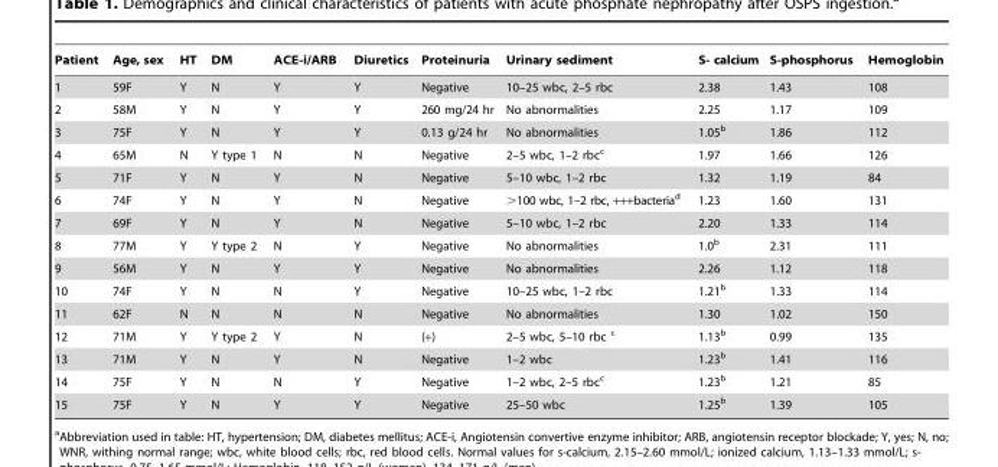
<table><thead><tr><td>Patient</td><td>Age, sex</td><td>HT</td><td>DM</td><td>ACE-i/ARB</td><td>Diuretics</td><td>Proteinuria</td><td>Urinary sediment</td><td>S- calcium</td><td>S-phosphorus</td><td>Hemoglobin</td></tr></thead><tbody><tr><td>1</td><td>59F</td><td>Y</td><td>N</td><td>Y</td><td>Y</td><td>Negative</td><td>10–25 wbc, 2–5 rbc</td><td>2.38</td><td>1.43</td><td>108</td></tr><tr><td>2</td><td>58M</td><td>Y</td><td>N</td><td>Y</td><td>Y</td><td>260 mg/24 hr</td><td>No abnormalities</td><td>2.25</td><td>1.17</td><td>109</td></tr><tr><td>3</td><td>75F</td><td>Y</td><td>N</td><td>Y</td><td>Y</td><td>0.13 g/24 hr</td><td>No abnormalities</td><td>1.05<sup>b</sup></td><td>1.86</td><td>112</td></tr><tr><td>4</td><td>65M</td><td>N</td><td>Y type 1</td><td>N</td><td>N</td><td>Negative</td><td>2–5 wbc, 1–2 rbc<sup>c</sup></td><td>1.97</td><td>1.66</td><td>126</td></tr><tr><td>5</td><td>71F</td><td>Y</td><td>N</td><td>Y</td><td>N</td><td>Negative</td><td>5–10 wbc, 1–2 rbc</td><td>1.32</td><td>1.19</td><td>84</td></tr><tr><td>6</td><td>74F</td><td>Y</td><td>N</td><td>Y</td><td>N</td><td>Negative</td><td>&gt;100 wbc, 1–2 rbc, +++bacteria<sup>d</sup></td><td>1.23</td><td>1.60</td><td>131</td></tr><tr><td>7</td><td>69F</td><td>Y</td><td>N</td><td>Y</td><td>N</td><td>Negative</td><td>5–10 wbc, 1–2 rbc</td><td>2.20</td><td>1.33</td><td>114</td></tr><tr><td>8</td><td>77M</td><td>Y</td><td>Y type 2</td><td>N</td><td>Y</td><td>Negative</td><td>No abnormalities</td><td>1.0<sup>b</sup></td><td>2.31</td><td>111</td></tr><tr><td>9</td><td>56M</td><td>Y</td><td>N</td><td>Y</td><td>Y</td><td>Negative</td><td>No abnormalities</td><td>2.26</td><td>1.12</td><td>118</td></tr><tr><td>10</td><td>74F</td><td>Y</td><td>N</td><td>N</td><td>Y</td><td>Negative</td><td>10–25 wbc, 1–2 rbc</td><td>1.21<sup>b</sup></td><td>1.33</td><td>114</td></tr><tr><td>11</td><td>62F</td><td>N</td><td>N</td><td>N</td><td>N</td><td>Negative</td><td>No abnormalities</td><td>1.30</td><td>1.02</td><td>150</td></tr><tr><td>12</td><td>71M</td><td>Y</td><td>Y type 2</td><td>Y</td><td>N</td><td>(+)</td><td>2–5 wbc, 5–10 rbc c</td><td>1.13<sup>b</sup></td><td>0.99</td><td>135</td></tr><tr><td>13</td><td>71M</td><td>Y</td><td>N</td><td>Y</td><td>N</td><td>Negative</td><td>1–2 wbc</td><td>1.23<sup>b</sup></td><td>1.41</td><td>116</td></tr><tr><td>14</td><td>75F</td><td>Y</td><td>N</td><td>N</td><td>Y</td><td>Negative</td><td>1–2 wbc, 2–5 rbc<sup>c</sup></td><td>1.23<sup>b</sup></td><td>1.21</td><td>85</td></tr><tr><td>15</td><td>75F</td><td>Y</td><td>N</td><td>Y</td><td>Y</td><td>Negative</td><td>25–50 wbc</td><td>1.25<sup>b</sup></td><td>1.39</td><td>105</td></tr></tbody></table>